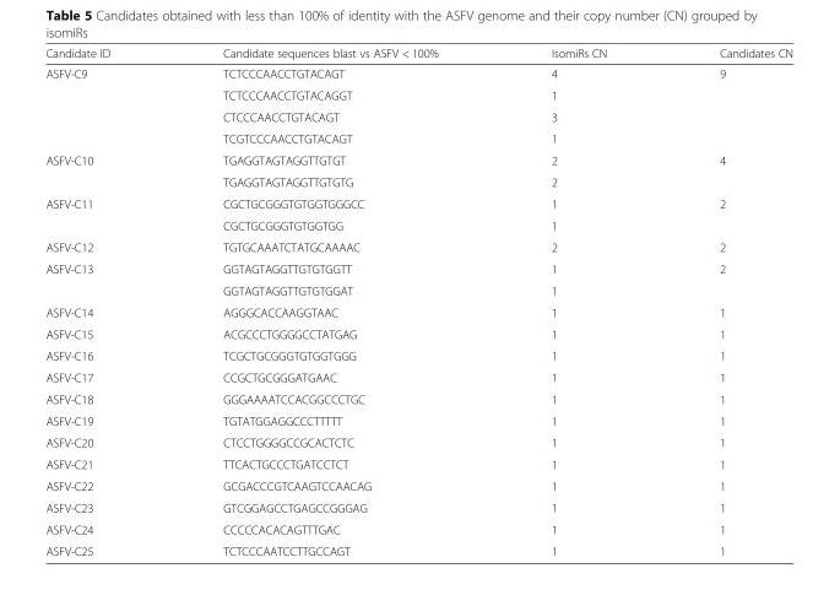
<table><thead><tr><td>Candidate ID</td><td>Candidate sequences blast vs ASFV &lt; 100%</td><td>IsomiRs CN</td><td>Candidates CN</td></tr></thead><tbody><tr><td rowspan="4">ASFV-C9</td><td>TCTCCCAACCTGTACAGT</td><td>4</td><td rowspan="4">9</td></tr><tr><td>TCTCCCAACCTGTACAGGT</td><td>1</td></tr><tr><td>CTCCCAACCTGTACAGT</td><td>3</td></tr><tr><td>TCGTCCCAACCTGTACAGT</td><td>1</td></tr><tr><td rowspan="2">ASFV-C10</td><td>TGAGGTAGTAGGTTGTGT</td><td>2</td><td rowspan="2">4</td></tr><tr><td>TGAGGTAGTAGGTTGTGTG</td><td>2</td></tr><tr><td rowspan="2">ASFV-C11</td><td>CGCTGCGGGTGTGGTGGGCC</td><td>1</td><td rowspan="2">2</td></tr><tr><td>CGCTGCGGGTGTGGTGG</td><td>1</td></tr><tr><td>ASFV-C12</td><td>TGTGCAAATCTATGCAAAAC</td><td>2</td><td>2</td></tr><tr><td rowspan="2">ASFV-C13</td><td>GGTAGTAGGTTGTGTGGTT</td><td>1</td><td rowspan="2">2</td></tr><tr><td>GGTAGTAGGTTGTGTGGAT</td><td>1</td></tr><tr><td>ASFV-C14</td><td>AGGGCACCAAGGTAAC</td><td>1</td><td>1</td></tr><tr><td>ASFV-C15</td><td>ACGCCCTGGGGCCTATGAG</td><td>1</td><td>1</td></tr><tr><td>ASFV-C16</td><td>TCGCTGCGGGTGTGGTGGG</td><td>1</td><td>1</td></tr><tr><td>ASFV-C17</td><td>CCGCTGCGGGATGAAC</td><td>1</td><td>1</td></tr><tr><td>ASFV-C18</td><td>GGGAAAATCCACGGCCCTGC</td><td>1</td><td>1</td></tr><tr><td>ASFV-C19</td><td>TGTATGGAGGCCCTTTTT</td><td>1</td><td>1</td></tr><tr><td>ASFV-C20</td><td>CTCCTGGGGCCGCACTCTC</td><td>1</td><td>1</td></tr><tr><td>ASFV-C21</td><td>TTCACTGCCCTGATCCTCT</td><td>1</td><td>1</td></tr><tr><td>ASFV-C22</td><td>GCGACCCGTCAAGTCCAACAG</td><td>1</td><td>1</td></tr><tr><td>ASFV-C23</td><td>GTCGGAGCCTGAGCCGGGAG</td><td>1</td><td>1</td></tr><tr><td>ASFV-C24</td><td>CCCCCACACAGTTTGAC</td><td>1</td><td>1</td></tr><tr><td>ASFV-C25</td><td>TCTCCCAATCCTTGCCAGT</td><td>1</td><td>1</td></tr></tbody></table>